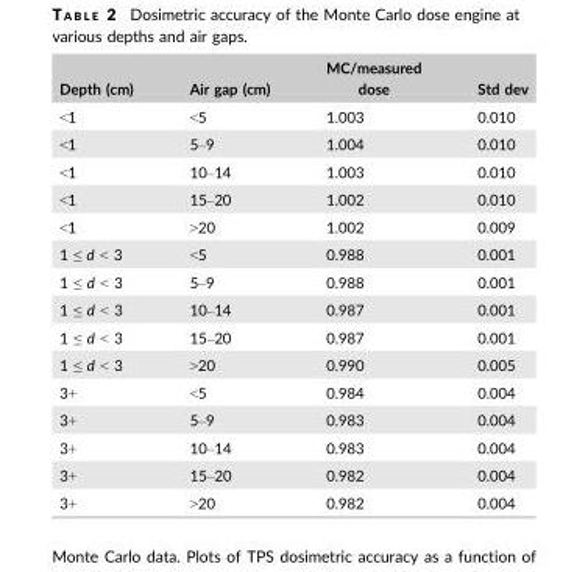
<table><thead><tr><td>Depth (cm)</td><td>Air gap (cm)</td><td>MC/measured dose</td><td>Std dev</td></tr></thead><tbody><tr><td>&lt;1</td><td>&lt;5</td><td>1.003</td><td>0.010</td></tr><tr><td>&lt;1</td><td>5–9</td><td>1.004</td><td>0.010</td></tr><tr><td>&lt;1</td><td>10–14</td><td>1.003</td><td>0.010</td></tr><tr><td>&lt;1</td><td>15–20</td><td>1.002</td><td>0.010</td></tr><tr><td>&lt;1</td><td>&gt;20</td><td>1.002</td><td>0.009</td></tr><tr><td>1 ≤ d &lt; 3</td><td>&lt;5</td><td>0.988</td><td>0.001</td></tr><tr><td>1 ≤ d &lt; 3</td><td>5–9</td><td>0.988</td><td>0.001</td></tr><tr><td>1 ≤ d &lt; 3</td><td>10–14</td><td>0.987</td><td>0.001</td></tr><tr><td>1 ≤ d &lt; 3</td><td>15–20</td><td>0.987</td><td>0.001</td></tr><tr><td>1 ≤ d &lt; 3</td><td>&gt;20</td><td>0.990</td><td>0.005</td></tr><tr><td>3+</td><td>&lt;5</td><td>0.984</td><td>0.004</td></tr><tr><td>3+</td><td>5–9</td><td>0.983</td><td>0.004</td></tr><tr><td>3+</td><td>10–14</td><td>0.983</td><td>0.004</td></tr><tr><td>3+</td><td>15–20</td><td>0.982</td><td>0.004</td></tr><tr><td>3+</td><td>&gt;20</td><td>0.982</td><td>0.004</td></tr></tbody></table>